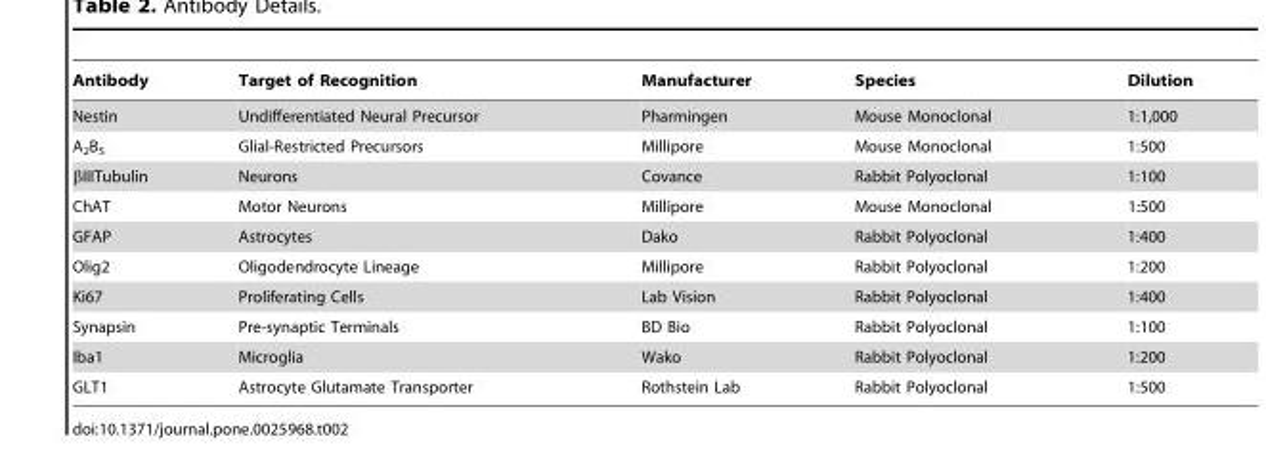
<table><thead><tr><td>Antibody</td><td>Target of Recognition</td><td>Manufacturer</td><td>Species</td><td>Dilution</td></tr></thead><tbody><tr><td>Nestin</td><td>Undifferentiated Neural Precursor</td><td>Pharmingen</td><td>Mouse Monoclonal</td><td>1:1,000</td></tr><tr><td>A<sub>2</sub>B<sub>5</sub></td><td>Glial-Restricted Precursors</td><td>Millipore</td><td>Mouse Monoclonal</td><td>1:500</td></tr><tr><td>βIIITubulin</td><td>Neurons</td><td>Covance</td><td>Rabbit Polyoclonal</td><td>1:100</td></tr><tr><td>ChAT</td><td>Motor Neurons</td><td>Millipore</td><td>Mouse Monoclonal</td><td>1:500</td></tr><tr><td>GFAP</td><td>Astrocytes</td><td>Dako</td><td>Rabbit Polyoclonal</td><td>1:400</td></tr><tr><td>Olig2</td><td>Oligodendrocyte Lineage</td><td>Millipore</td><td>Rabbit Polyoclonal</td><td>1:200</td></tr><tr><td>Ki67</td><td>Proliferating Cells</td><td>Lab Vision</td><td>Rabbit Polyoclonal</td><td>1:400</td></tr><tr><td>Synapsin</td><td>Pre-synaptic Terminals</td><td>BD Bio</td><td>Rabbit Polyoclonal</td><td>1:100</td></tr><tr><td>Iba1</td><td>Microglia</td><td>Wako</td><td>Rabbit Polyoclonal</td><td>1:200</td></tr><tr><td>GLT1</td><td>Astrocyte Glutamate Transporter</td><td>Rothstein Lab</td><td>Rabbit Polyoclonal</td><td>1:500</td></tr></tbody></table>